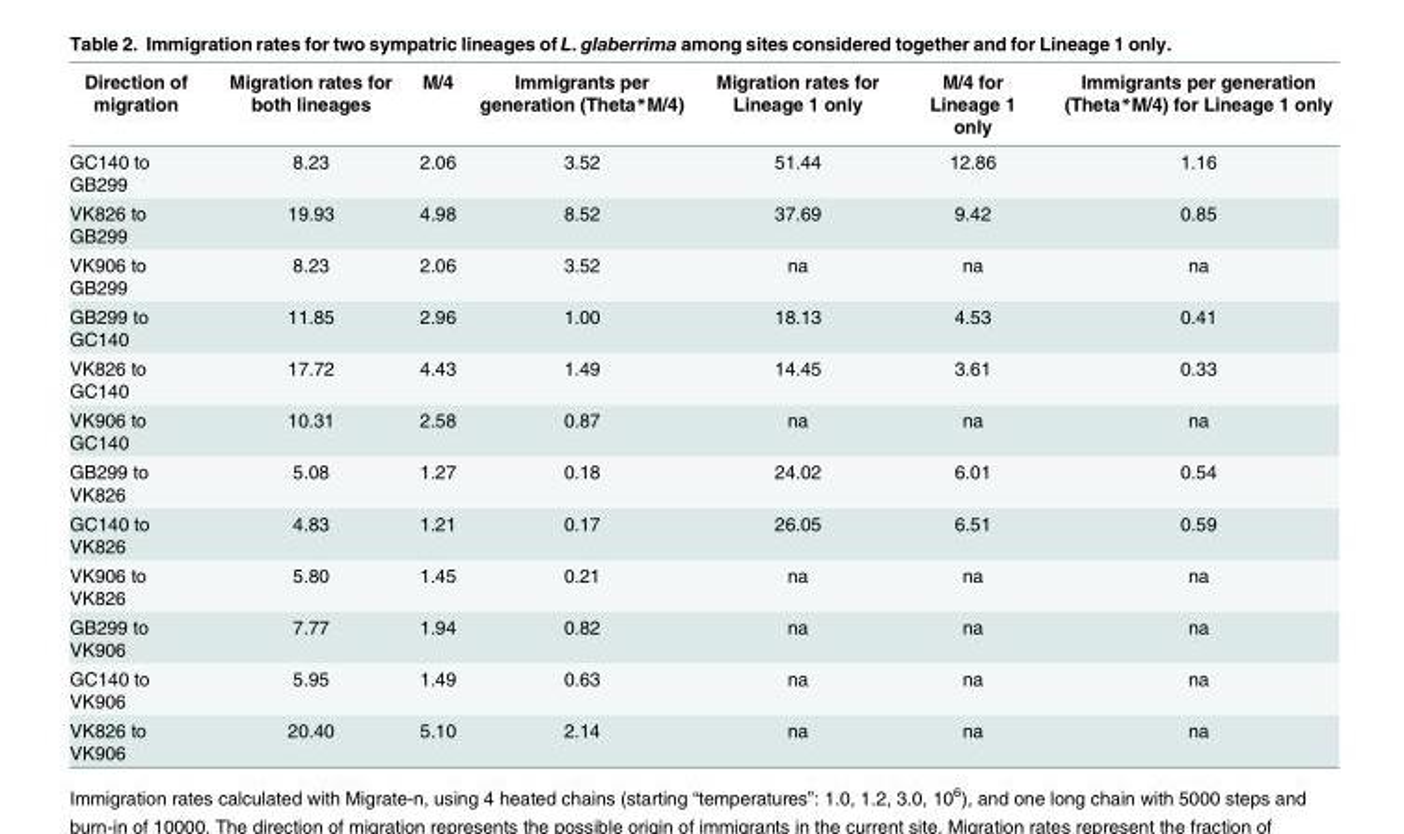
<table><thead><tr><td>Direction of migration</td><td>Migration rates for both lineages</td><td>M/4</td><td>Immigrants per generation (Theta*M/4)</td><td>Migration rates for Lineage 1 only</td><td>M/4 for Lineage 1 only</td><td>Immigrants per generation (Theta*M/4) for Lineage 1 only</td></tr></thead><tbody><tr><td>GC140 to GB299</td><td>8.23</td><td>2.06</td><td>3.52</td><td>51.44</td><td>12.86</td><td>1.16</td></tr><tr><td>VK826 to GB299</td><td>19.93</td><td>4.98</td><td>8.52</td><td>37.69</td><td>9.42</td><td>0.85</td></tr><tr><td>VK906 to GB299</td><td>8.23</td><td>2.06</td><td>3.52</td><td>na</td><td>na</td><td>na</td></tr><tr><td>GB299 to GC140</td><td>11.85</td><td>2.96</td><td>1.00</td><td>18.13</td><td>4.53</td><td>0.41</td></tr><tr><td>VK826 to GC140</td><td>17.72</td><td>4.43</td><td>1.49</td><td>14.45</td><td>3.61</td><td>0.33</td></tr><tr><td>VK906 to GC140</td><td>10.31</td><td>2.58</td><td>0.87</td><td>na</td><td>na</td><td>na</td></tr><tr><td>GB299 to VK826</td><td>5.08</td><td>1.27</td><td>0.18</td><td>24.02</td><td>6.01</td><td>0.54</td></tr><tr><td>GC140 to VK826</td><td>4.83</td><td>1.21</td><td>0.17</td><td>26.05</td><td>6.51</td><td>0.59</td></tr><tr><td>VK906 to VK826</td><td>5.80</td><td>1.45</td><td>0.21</td><td>na</td><td>na</td><td>na</td></tr><tr><td>GB299 to VK906</td><td>7.77</td><td>1.94</td><td>0.82</td><td>na</td><td>na</td><td>na</td></tr><tr><td>GC140 to VK906</td><td>5.95</td><td>1.49</td><td>0.63</td><td>na</td><td>na</td><td>na</td></tr><tr><td>VK826 to VK906</td><td>20.40</td><td>5.10</td><td>2.14</td><td>na</td><td>na</td><td>na</td></tr></tbody></table>